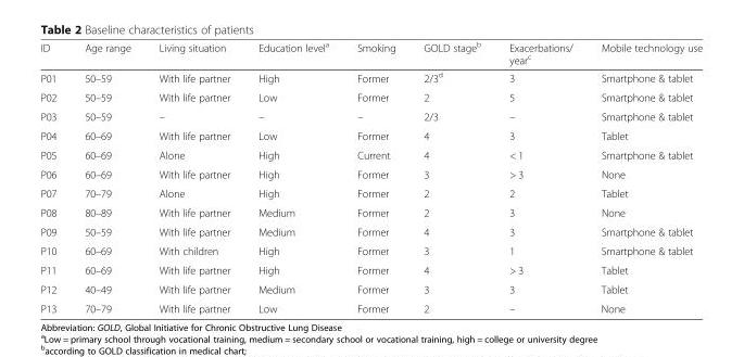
<table><thead><tr><td>ID</td><td>Age range</td><td>Living situation</td><td>Education level<sup>a</sup></td><td>Smoking</td><td>GOLD stage<sup>b</sup></td><td>Exacerbations/ year<sup>c</sup></td><td>Mobile technology use</td></tr></thead><tbody><tr><td>P01</td><td>50–59</td><td>With life partner</td><td>High</td><td>Former</td><td>2/3<sup>d</sup></td><td>3</td><td>Smartphone &amp; tablet</td></tr><tr><td>P02</td><td>50–59</td><td>With life partner</td><td>Low</td><td>Former</td><td>2</td><td>5</td><td>Smartphone &amp; tablet</td></tr><tr><td>P03</td><td>50–59</td><td>–</td><td>–</td><td>–</td><td>2/3</td><td>–</td><td>Smartphone &amp; tablet</td></tr><tr><td>P04</td><td>60–69</td><td>With life partner</td><td>Low</td><td>Former</td><td>4</td><td>3</td><td>Tablet</td></tr><tr><td>P05</td><td>60–69</td><td>Alone</td><td>High</td><td>Current</td><td>4</td><td>&lt; 1</td><td>Smartphone &amp; tablet</td></tr><tr><td>P06</td><td>60–69</td><td>With life partner</td><td>High</td><td>Former</td><td>3</td><td>&gt; 3</td><td>None</td></tr><tr><td>P07</td><td>70–79</td><td>Alone</td><td>High</td><td>Former</td><td>2</td><td>2</td><td>Tablet</td></tr><tr><td>P08</td><td>80–89</td><td>With life partner</td><td>Medium</td><td>Former</td><td>2</td><td>3</td><td>None</td></tr><tr><td>P09</td><td>50–59</td><td>With life partner</td><td>Medium</td><td>Former</td><td>4</td><td>3</td><td>Smartphone &amp; tablet</td></tr><tr><td>P10</td><td>60–69</td><td>With children</td><td>High</td><td>Former</td><td>3</td><td>1</td><td>Smartphone &amp; tablet</td></tr><tr><td>P11</td><td>60–69</td><td>With life partner</td><td>High</td><td>Former</td><td>4</td><td>&gt; 3</td><td>Tablet</td></tr><tr><td>P12</td><td>40–49</td><td>With life partner</td><td>Medium</td><td>Former</td><td>3</td><td>3</td><td>Tablet</td></tr><tr><td>P13</td><td>70–79</td><td>With life partner</td><td>Low</td><td>Former</td><td>2</td><td>–</td><td>None</td></tr></tbody></table>